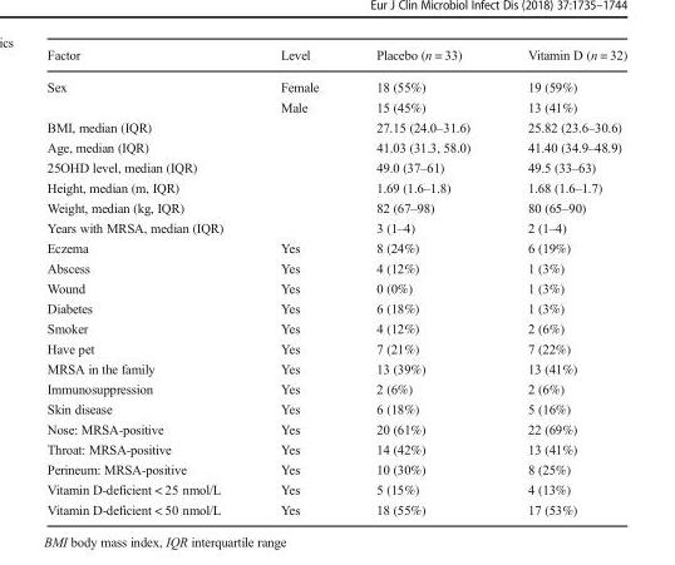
<table><thead><tr><td>Factor</td><td>Level</td><td>Placebo (n = 33)</td><td>Vitamin D (n = 32)</td></tr></thead><tbody><tr><td rowspan="2">Sex</td><td>Female</td><td>18 (55%)</td><td>19 (59%)</td></tr><tr><td>Male</td><td>15 (45%)</td><td>13 (41%)</td></tr><tr><td>BMI, median (IQR)</td><td></td><td>27.15 (24.0–31.6)</td><td>25.82 (23.6–30.6)</td></tr><tr><td>Age, median (IQR)</td><td></td><td>41.03 (31.3, 58.0)</td><td>41.40 (34.9–48.9)</td></tr><tr><td>25OHD level, median (IQR)</td><td></td><td>49.0 (37–61)</td><td>49.5 (33–63)</td></tr><tr><td>Height, median (m, IQR)</td><td></td><td>1.69 (1.6–1.8)</td><td>1.68 (1.6–1.7)</td></tr><tr><td>Weight, median (kg, IQR)</td><td></td><td>82 (67–98)</td><td>80 (65–90)</td></tr><tr><td>Years with MRSA, median (IQR)</td><td></td><td>3 (1–4)</td><td>2 (1–4)</td></tr><tr><td>Eczema</td><td>Yes</td><td>8 (24%)</td><td>6 (19%)</td></tr><tr><td>Abscess</td><td>Yes</td><td>4 (12%)</td><td>1 (3%)</td></tr><tr><td>Wound</td><td>Yes</td><td>0 (0%)</td><td>1 (3%)</td></tr><tr><td>Diabetes</td><td>Yes</td><td>6 (18%)</td><td>1 (3%)</td></tr><tr><td>Smoker</td><td>Yes</td><td>4 (12%)</td><td>2 (6%)</td></tr><tr><td>Have pet</td><td>Yes</td><td>7 (21%)</td><td>7 (22%)</td></tr><tr><td>MRSA in the family</td><td>Yes</td><td>13 (39%)</td><td>13 (41%)</td></tr><tr><td>Immunosuppression</td><td>Yes</td><td>2 (6%)</td><td>2 (6%)</td></tr><tr><td>Skin disease</td><td>Yes</td><td>6 (18%)</td><td>5 (16%)</td></tr><tr><td>Nose: MRSA-positive</td><td>Yes</td><td>20 (61%)</td><td>22 (69%)</td></tr><tr><td>Throat: MRSA-positive</td><td>Yes</td><td>14 (42%)</td><td>13 (41%)</td></tr><tr><td>Perineum: MRSA-positive</td><td>Yes</td><td>10 (30%)</td><td>8 (25%)</td></tr><tr><td>Vitamin D-deficient &lt; 25 nmol/L</td><td>Yes</td><td>5 (15%)</td><td>4 (13%)</td></tr><tr><td>Vitamin D-deficient &lt; 50 nmol/L</td><td>Yes</td><td>18 (55%)</td><td>17 (53%)</td></tr></tbody></table>